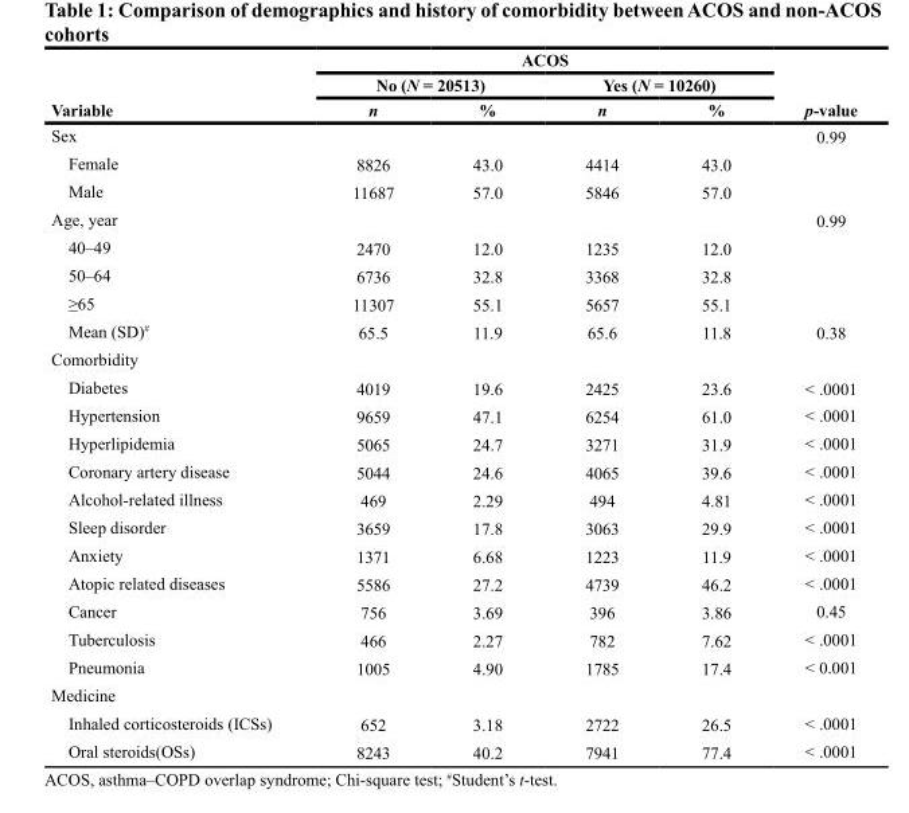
<table><thead><tr><td rowspan="3">Variable</td><td colspan="4">ACOS</td><td rowspan="3">p-value</td></tr><tr><td colspan="2">No (N = 20513)</td><td colspan="2">Yes (N = 10260)</td></tr><tr><td>n</td><td>%</td><td>n</td><td>%</td></tr></thead><tbody><tr><td>Sex</td><td></td><td></td><td></td><td></td><td>0.99</td></tr><tr><td>Female</td><td>8826</td><td>43.0</td><td>4414</td><td>43.0</td><td></td></tr><tr><td>Male</td><td>11687</td><td>57.0</td><td>5846</td><td>57.0</td><td></td></tr><tr><td>Age, year</td><td></td><td></td><td></td><td></td><td>0.99</td></tr><tr><td>40–49</td><td>2470</td><td>12.0</td><td>1235</td><td>12.0</td><td></td></tr><tr><td>50–64</td><td>6736</td><td>32.8</td><td>3368</td><td>32.8</td><td></td></tr><tr><td>≥65</td><td>11307</td><td>55.1</td><td>5657</td><td>55.1</td><td></td></tr><tr><td>Mean (SD)<sup>#</sup></td><td>65.5</td><td>11.9</td><td>65.6</td><td>11.8</td><td>0.38</td></tr><tr><td colspan="6">Comorbidity</td></tr><tr><td>Diabetes</td><td>4019</td><td>19.6</td><td>2425</td><td>23.6</td><td>&lt; .0001</td></tr><tr><td>Hypertension</td><td>9659</td><td>47.1</td><td>6254</td><td>61.0</td><td>&lt; .0001</td></tr><tr><td>Hyperlipidemia</td><td>5065</td><td>24.7</td><td>3271</td><td>31.9</td><td>&lt; .0001</td></tr><tr><td>Coronary artery disease</td><td>5044</td><td>24.6</td><td>4065</td><td>39.6</td><td>&lt; .0001</td></tr><tr><td>Alcohol-related illness</td><td>469</td><td>2.29</td><td>494</td><td>4.81</td><td>&lt; .0001</td></tr><tr><td>Sleep disorder</td><td>3659</td><td>17.8</td><td>3063</td><td>29.9</td><td>&lt; .0001</td></tr><tr><td>Anxiety</td><td>1371</td><td>6.68</td><td>1223</td><td>11.9</td><td>&lt; .0001</td></tr><tr><td>Atopic related diseases</td><td>5586</td><td>27.2</td><td>4739</td><td>46.2</td><td>&lt; .0001</td></tr><tr><td>Cancer</td><td>756</td><td>3.69</td><td>396</td><td>3.86</td><td>0.45</td></tr><tr><td>Tuberculosis</td><td>466</td><td>2.27</td><td>782</td><td>7.62</td><td>&lt; .0001</td></tr><tr><td>Pneumonia</td><td>1005</td><td>4.90</td><td>1785</td><td>17.4</td><td>&lt; 0.001</td></tr><tr><td colspan="6">Medicine</td></tr><tr><td>Inhaled corticosteroids (ICSs)</td><td>652</td><td>3.18</td><td>2722</td><td>26.5</td><td>&lt; .0001</td></tr><tr><td>Oral steroids(OSs)</td><td>8243</td><td>40.2</td><td>7941</td><td>77.4</td><td>&lt; .0001</td></tr></tbody></table>